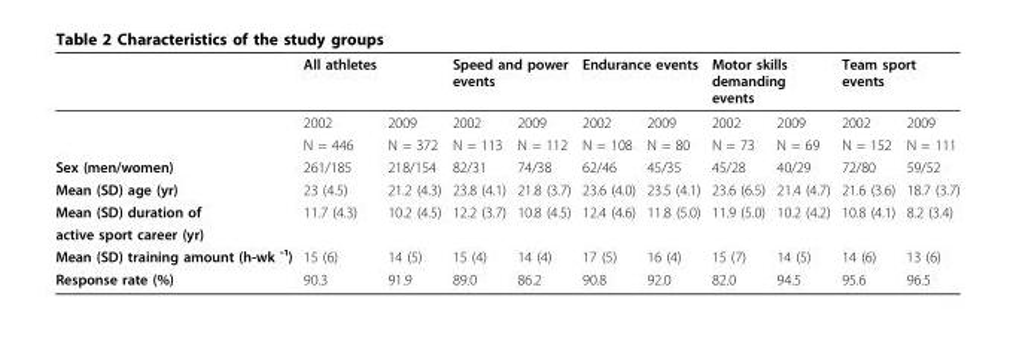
<table><thead><tr><td rowspan="2"></td><td rowspan="2">All athletes 2002</td><td rowspan="2">2009</td><td colspan="2">Speed and power events</td><td colspan="2">Endurance events</td><td colspan="2">Motor skills demanding events</td><td colspan="2">Team sport events</td></tr><tr><td>2002</td><td>2009</td><td>2002</td><td>2009</td><td>2002</td><td>2009</td><td>2002</td><td>2009</td></tr></thead><tbody><tr><td></td><td>N = 446</td><td>N = 372</td><td>N = 113</td><td>N = 112</td><td>N = 108</td><td>N = 80</td><td>N = 73</td><td>N = 69</td><td>N = 152</td><td>N = 111</td></tr><tr><td>Sex (men/women)</td><td>261/185</td><td>218/154</td><td>82/31</td><td>74/38</td><td>62/46</td><td>45/35</td><td>45/28</td><td>40/29</td><td>72/80</td><td>59/52</td></tr><tr><td>Mean (SD) age (yr)</td><td>23 (4.5)</td><td>21.2 (4.3)</td><td>23.8 (4.1)</td><td>21.8 (3.7)</td><td>23.6 (4.0)</td><td>23.5 (4.1)</td><td>23.6 (6.5)</td><td>21.4 (4.7)</td><td>21.6 (3.6)</td><td>18.7 (3.7)</td></tr><tr><td>Mean (SD) duration of</td><td>11.7 (4.3)</td><td>10.2 (4.5)</td><td>12.2 (3.7)</td><td>10.8 (4.5)</td><td>12.4 (4.6)</td><td>11.8 (5.0)</td><td>11.9 (5.0)</td><td>10.2 (4.2)</td><td>10.8 (4.1)</td><td>8.2 (3.4)</td></tr><tr><td colspan="11">active sport career (yr)</td></tr><tr><td>Mean (SD) training amount (h-wk ˉ¹)</td><td>15 (6)</td><td>14 (5)</td><td>15 (4)</td><td>14 (4)</td><td>17 (5)</td><td>16 (4)</td><td>15 (7)</td><td>14 (5)</td><td>14 (6)</td><td>13 (6)</td></tr><tr><td>Response rate (%)</td><td>90.3</td><td>91.9</td><td>89.0</td><td>86.2</td><td>90.8</td><td>92.0</td><td>82.0</td><td>94.5</td><td>95.6</td><td>96.5</td></tr></tbody></table>